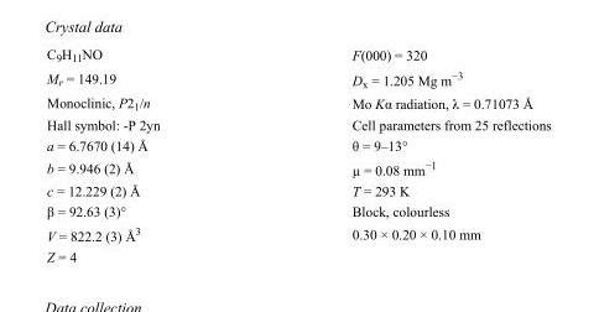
<table><tbody><tr><td>C<sub>9</sub>H<sub>11</sub>NO</td><td>F(000) = 320</td></tr><tr><td>M<sub>r</sub> = 149.19</td><td>D<sub>x</sub> = 1.205 Mg m<sup>−3</sup></td></tr><tr><td>Monoclinic, P2<sub>1</sub>/n</td><td>Mo Kα radiation, λ = 0.71073 Å</td></tr><tr><td>Hall symbol: -P 2yn</td><td>Cell parameters from 25 reflections</td></tr><tr><td>a = 6.7670 (14) Å</td><td>θ = 9–13°</td></tr><tr><td>b = 9.946 (2) Å</td><td>µ = 0.08 mm<sup>−1</sup></td></tr><tr><td>c = 12.229 (2) Å</td><td>T = 293 K</td></tr><tr><td>β = 92.63 (3)°</td><td>Block, colourless</td></tr><tr><td>V = 822.2 (3) Å<sup>3</sup></td><td>0.30 × 0.20 × 0.10 mm</td></tr><tr><td>Z = 4</td><td></td></tr></tbody></table>